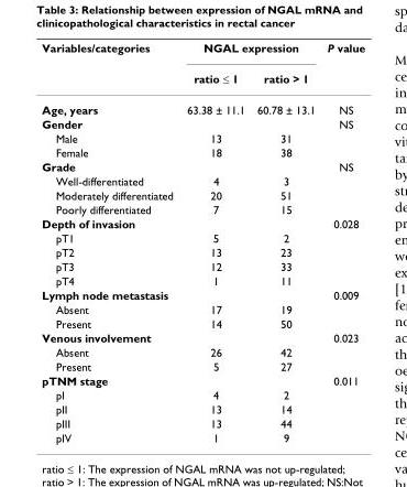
<table><thead><tr><td rowspan="2">Variables/categories</td><td colspan="2">NGAL expression</td><td rowspan="2">P value</td></tr><tr><td>ratio ≤ 1</td><td>ratio &gt; 1</td></tr></thead><tbody><tr><td>Age, years</td><td>63.38 ± 11.1</td><td>60.78 ± 13.1</td><td>NS</td></tr><tr><td>Gender</td><td></td><td></td><td>NS</td></tr><tr><td>Male</td><td>13</td><td>31</td><td></td></tr><tr><td>Female</td><td>18</td><td>38</td><td></td></tr><tr><td>Grade</td><td></td><td></td><td>NS</td></tr><tr><td>Well-differentiated</td><td>4</td><td>3</td><td></td></tr><tr><td>Moderately differentiated</td><td>20</td><td>51</td><td></td></tr><tr><td>Poorly differentiated</td><td>7</td><td>15</td><td></td></tr><tr><td>Depth of invasion</td><td></td><td></td><td>0.028</td></tr><tr><td>pT1</td><td>5</td><td>2</td><td></td></tr><tr><td>pT2</td><td>13</td><td>23</td><td></td></tr><tr><td>pT3</td><td>12</td><td>33</td><td></td></tr><tr><td>pT4</td><td>1</td><td>11</td><td></td></tr><tr><td>Lymph node metastasis</td><td></td><td></td><td>0.009</td></tr><tr><td>Absent</td><td>17</td><td>19</td><td></td></tr><tr><td>Present</td><td>14</td><td>50</td><td></td></tr><tr><td>Venous involvement</td><td></td><td></td><td>0.023</td></tr><tr><td>Absent</td><td>26</td><td>42</td><td></td></tr><tr><td>Present</td><td>5</td><td>27</td><td></td></tr><tr><td>pTNM stage</td><td></td><td></td><td>0.011</td></tr><tr><td>pI</td><td>4</td><td>2</td><td></td></tr><tr><td>pII</td><td>13</td><td>14</td><td></td></tr><tr><td>pIII</td><td>13</td><td>44</td><td></td></tr><tr><td>pIV</td><td>1</td><td>9</td><td></td></tr></tbody></table>